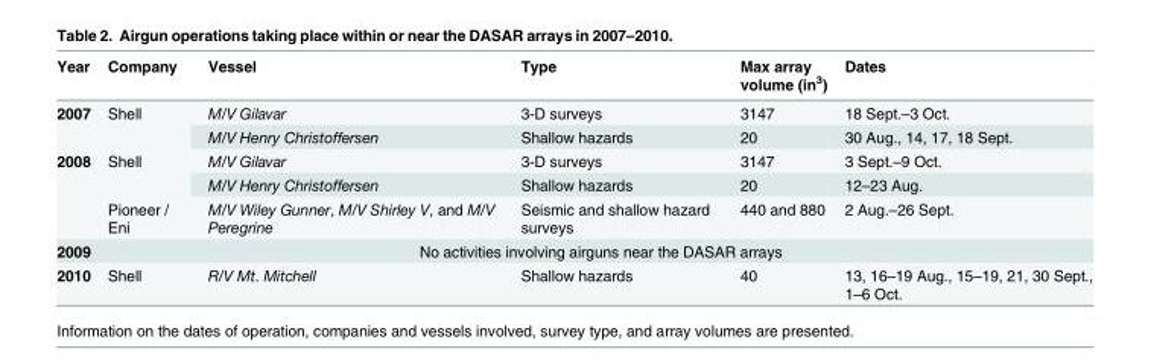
<table><thead><tr><td>Year</td><td>Company</td><td>Vessel</td><td>Type</td><td>Max array volume (in<sup>3</sup>)</td><td>Dates</td></tr></thead><tbody><tr><td rowspan="2">2007</td><td rowspan="2">Shell</td><td>M/V Gilavar</td><td>3-D surveys</td><td>3147</td><td>18 Sept.–3 Oct.</td></tr><tr><td>M/V Henry Christoffersen</td><td>Shallow hazards</td><td>20</td><td>30 Aug., 14, 17, 18 Sept.</td></tr><tr><td rowspan="3">2008</td><td rowspan="2">Shell</td><td>M/V Gilavar</td><td>3-D surveys</td><td>3147</td><td>3 Sept.–9 Oct.</td></tr><tr><td>M/V Henry Christoffersen</td><td>Shallow hazards</td><td>20</td><td>12–23 Aug.</td></tr><tr><td>Pioneer / Eni</td><td>M/V Wiley Gunner, M/V Shirley V, and M/V Peregrine</td><td>Seismic and shallow hazard surveys</td><td>440 and 880</td><td>2 Aug.–26 Sept.</td></tr><tr><td>2009</td><td colspan="5">No activities involving airguns near the DASAR arrays</td></tr><tr><td>2010</td><td>Shell</td><td>R/V Mt. Mitchell</td><td>Shallow hazards</td><td>40</td><td>13, 16–19 Aug., 15–19, 21, 30 Sept., 1–6 Oct.</td></tr></tbody></table>